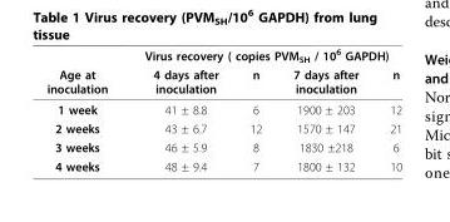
<table><thead><tr><td rowspan="2">Age at inoculation</td><td colspan="4">Virus recovery ( copies PVM<sub>SH</sub> / 10<sup>6</sup> GAPDH)</td></tr><tr><td>4 days after inoculation</td><td>n</td><td>7 days after inoculation</td><td>n</td></tr></thead><tbody><tr><td>1 week</td><td>41 ± 8.8</td><td>6</td><td>1900 ± 203</td><td>12</td></tr><tr><td>2 weeks</td><td>43 ± 6.7</td><td>12</td><td>1570 ± 147</td><td>21</td></tr><tr><td>3 weeks</td><td>46 ± 5.9</td><td>8</td><td>1830 ±218</td><td>6</td></tr><tr><td>4 weeks</td><td>48 ± 9.4</td><td>7</td><td>1800 ± 132</td><td>10</td></tr></tbody></table>